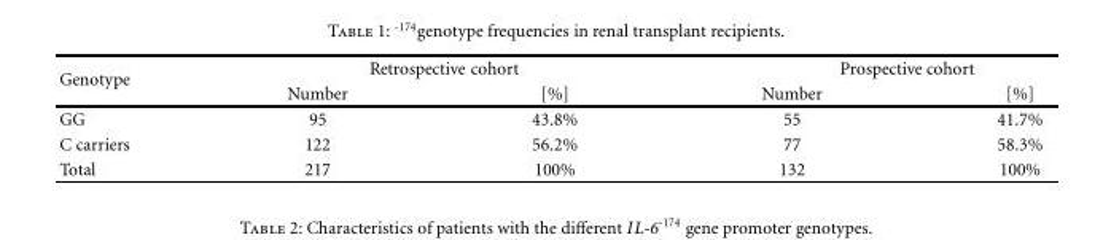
<table><thead><tr><td rowspan="2">Genotype</td><td colspan="2">Retrospective cohort</td><td colspan="2">Prospective cohort</td></tr><tr><td>Number</td><td>[%]</td><td>Number</td><td>[%]</td></tr></thead><tbody><tr><td>GG</td><td>95</td><td>43.8%</td><td>55</td><td>41.7%</td></tr><tr><td>C carriers</td><td>122</td><td>56.2%</td><td>77</td><td>58.3%</td></tr><tr><td>Total</td><td>217</td><td>100%</td><td>132</td><td>100%</td></tr></tbody></table>